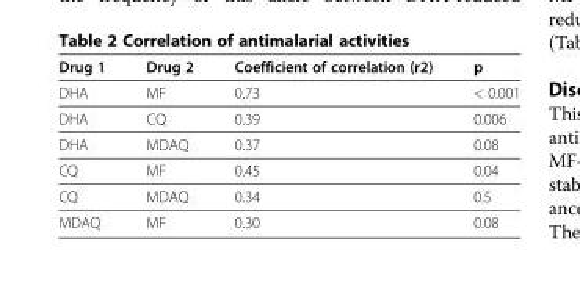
<table><thead><tr><td>Drug 1</td><td>Drug 2</td><td>Coefficient of correlation (r2)</td><td>p</td></tr></thead><tbody><tr><td>DHA</td><td>MF</td><td>0.73</td><td>&lt; 0.001</td></tr><tr><td>DHA</td><td>CQ</td><td>0.39</td><td>0.006</td></tr><tr><td>DHA</td><td>MDAQ</td><td>0.37</td><td>0.08</td></tr><tr><td>CQ</td><td>MF</td><td>0.45</td><td>0.04</td></tr><tr><td>CQ</td><td>MDAQ</td><td>0.34</td><td>0.5</td></tr><tr><td>MDAQ</td><td>MF</td><td>0.30</td><td>0.08</td></tr></tbody></table>